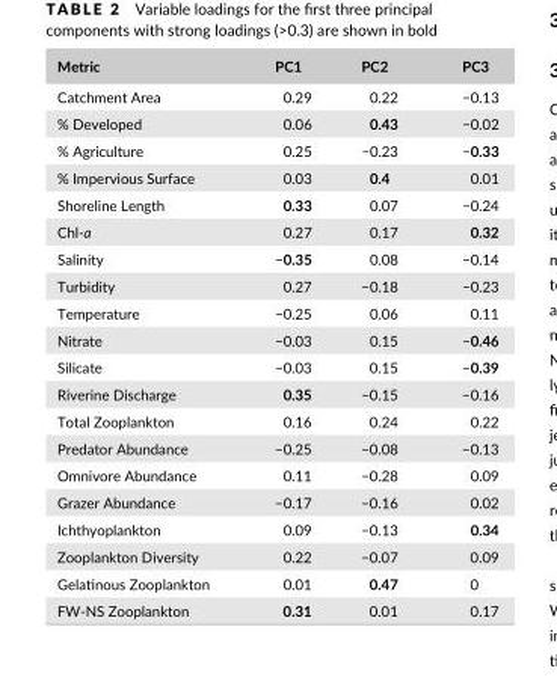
<table><thead><tr><td>Metric</td><td>PC1</td><td>PC2</td><td>PC3</td></tr></thead><tbody><tr><td>Catchment Area</td><td>0.29</td><td>0.22</td><td>−0.13</td></tr><tr><td>% Developed</td><td>0.06</td><td>0.43</td><td>−0.02</td></tr><tr><td>% Agriculture</td><td>0.25</td><td>−0.23</td><td>−0.33</td></tr><tr><td>% Impervious Surface</td><td>0.03</td><td>0.4</td><td>0.01</td></tr><tr><td>Shoreline Length</td><td>0.33</td><td>0.07</td><td>−0.24</td></tr><tr><td>Chl- a</td><td>0.27</td><td>0.17</td><td>0.32</td></tr><tr><td>Salinity</td><td>−0.35</td><td>0.08</td><td>−0.14</td></tr><tr><td>Turbidity</td><td>0.27</td><td>−0.18</td><td>−0.23</td></tr><tr><td>Temperature</td><td>−0.25</td><td>0.06</td><td>0.11</td></tr><tr><td>Nitrate</td><td>−0.03</td><td>0.15</td><td>−0.46</td></tr><tr><td>Silicate</td><td>−0.03</td><td>0.15</td><td>−0.39</td></tr><tr><td>Riverine Discharge</td><td>0.35</td><td>−0.15</td><td>−0.16</td></tr><tr><td>Total Zooplankton</td><td>0.16</td><td>0.24</td><td>0.22</td></tr><tr><td>Predator Abundance</td><td>−0.25</td><td>−0.08</td><td>−0.13</td></tr><tr><td>Omnivore Abundance</td><td>0.11</td><td>−0.28</td><td>0.09</td></tr><tr><td>Grazer Abundance</td><td>−0.17</td><td>−0.16</td><td>0.02</td></tr><tr><td>Ichthyoplankton</td><td>0.09</td><td>−0.13</td><td>0.34</td></tr><tr><td>Zooplankton Diversity</td><td>0.22</td><td>−0.07</td><td>0.09</td></tr><tr><td>Gelatinous Zooplankton</td><td>0.01</td><td>0.47</td><td>0</td></tr><tr><td>FW- NS Zooplankton</td><td>0.31</td><td>0.01</td><td>0.17</td></tr></tbody></table>